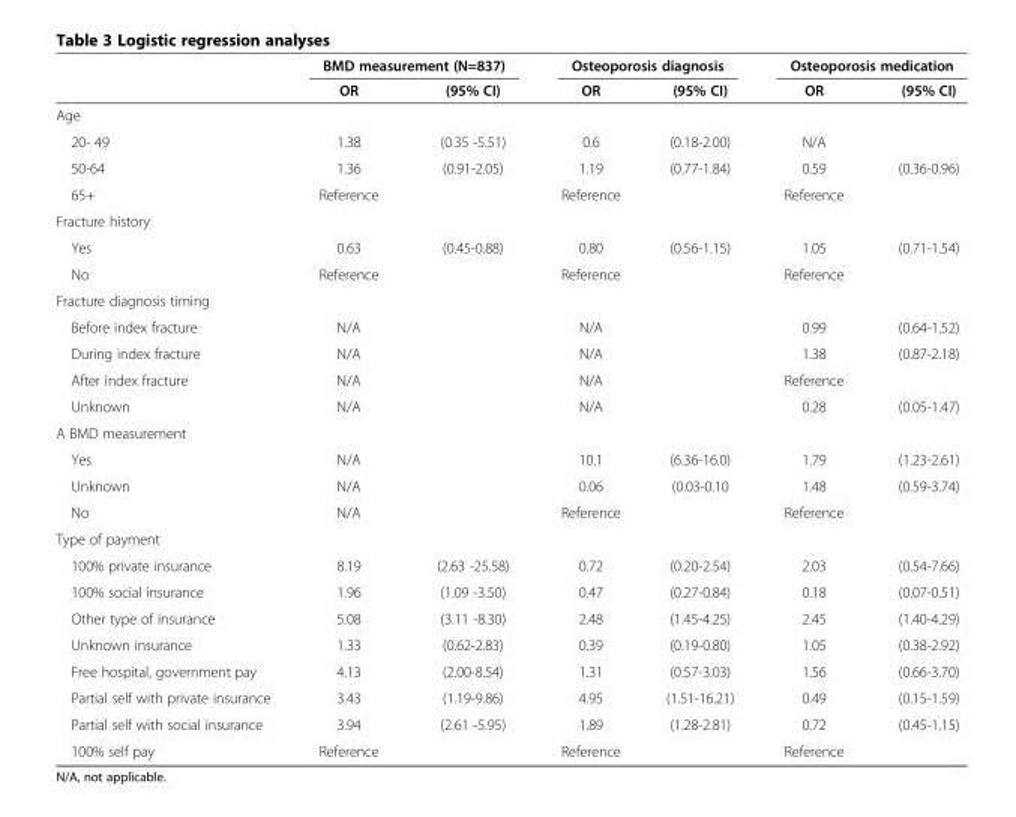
<table><thead><tr><td rowspan="2"></td><td colspan="2">BMD measurement (N=837)</td><td colspan="2">Osteoporosis diagnosis</td><td colspan="2">Osteoporosis medication</td></tr><tr><td>OR</td><td>(95% CI)</td><td>OR</td><td>(95% CI)</td><td>OR</td><td>(95% CI)</td></tr></thead><tbody><tr><td colspan="7">Age</td></tr><tr><td>20- 49</td><td>1.38</td><td>(0.35 -5.51)</td><td>0.6</td><td>(0.18-2.00)</td><td>N/A</td><td></td></tr><tr><td>50-64</td><td>1.36</td><td>(0.91-2.05)</td><td>1.19</td><td>(0.77-1.84)</td><td>0.59</td><td>(0.36-0.96)</td></tr><tr><td>65+</td><td>Reference</td><td></td><td>Reference</td><td></td><td>Reference</td><td></td></tr><tr><td colspan="7">Fracture history</td></tr><tr><td>Yes</td><td>0.63</td><td>(0.45-0.88)</td><td>0.80</td><td>(0.56-1.15)</td><td>1.05</td><td>(0.71-1.54)</td></tr><tr><td>No</td><td>Reference</td><td></td><td>Reference</td><td></td><td>Reference</td><td></td></tr><tr><td colspan="7">Fracture diagnosis timing</td></tr><tr><td>Before index fracture</td><td>N/A</td><td></td><td>N/A</td><td></td><td>0.99</td><td>(0.64-1.52)</td></tr><tr><td>During index fracture</td><td>N/A</td><td></td><td>N/A</td><td></td><td>1.38</td><td>(0.87-2.18)</td></tr><tr><td>After index fracture</td><td>N/A</td><td></td><td>N/A</td><td></td><td>Reference</td><td></td></tr><tr><td>Unknown</td><td>N/A</td><td></td><td>N/A</td><td></td><td>0.28</td><td>(0.05-1.47)</td></tr><tr><td colspan="7">A BMD measurement</td></tr><tr><td>Yes</td><td>N/A</td><td></td><td>10.1</td><td>(6.36-16.0)</td><td>1.79</td><td>(1.23-2.61)</td></tr><tr><td>Unknown</td><td>N/A</td><td></td><td>0.06</td><td>(0.03-0.10</td><td>1.48</td><td>(0.59-3.74)</td></tr><tr><td>No</td><td>N/A</td><td></td><td>Reference</td><td></td><td>Reference</td><td></td></tr><tr><td colspan="7">Type of payment</td></tr><tr><td>100% private insurance</td><td>8.19</td><td>(2.63 -25.58)</td><td>0.72</td><td>(0.20-2.54)</td><td>2.03</td><td>(0.54-7.66)</td></tr><tr><td>100% social insurance</td><td>1.96</td><td>(1.09 -3.50)</td><td>0.47</td><td>(0.27-0.84)</td><td>0.18</td><td>(0.07-0.51)</td></tr><tr><td>Other type of insurance</td><td>5.08</td><td>(3.11 -8.30)</td><td>2.48</td><td>(1.45-4.25)</td><td>2.45</td><td>(1.40-4.29)</td></tr><tr><td>Unknown insurance</td><td>1.33</td><td>(0.62-2.83)</td><td>0.39</td><td>(0.19-0.80)</td><td>1.05</td><td>(0.38-2.92)</td></tr><tr><td>Free hospital, government pay</td><td>4.13</td><td>(2.00-8.54)</td><td>1.31</td><td>(0.57-3.03)</td><td>1.56</td><td>(0.66-3.70)</td></tr><tr><td>Partial self with private insurance</td><td>3.43</td><td>(1.19-9.86)</td><td>4.95</td><td>(1.51-16.21)</td><td>0.49</td><td>(0.15-1.59)</td></tr><tr><td>Partial self with social insurance</td><td>3.94</td><td>(2.61 -5.95)</td><td>1.89</td><td>(1.28-2.81)</td><td>0.72</td><td>(0.45-1.15)</td></tr><tr><td>100% self pay</td><td>Reference</td><td></td><td>Reference</td><td></td><td>Reference</td><td></td></tr></tbody></table>